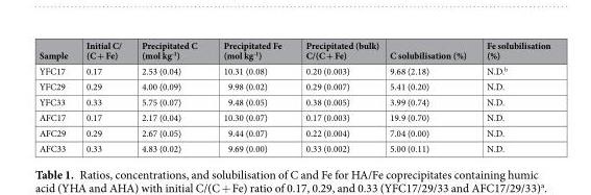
<table><thead><tr><td>Sample</td><td>Initial C/ (C + Fe)</td><td>Precipitated C (mol kg<sup>-1</sup>)</td><td>Precipitated Fe (mol kg<sup>-1</sup>)</td><td>Precipitated (bulk) C/(C + Fe)</td><td>C solubilisation (%)</td><td>Fe solubilisation (%)</td></tr></thead><tbody><tr><td>YFC17</td><td>0.17</td><td>2.53 (0.04)</td><td>10.31 (0.08)</td><td>0.20 (0.003)</td><td>9.68 (2.18)</td><td>N.D.<sup>b</sup></td></tr><tr><td>YFC29</td><td>0.29</td><td>4.00 (0.09)</td><td>9.98 (0.02)</td><td>0.29 (0.007)</td><td>5.41 (0.20)</td><td>N.D.</td></tr><tr><td>YFC33</td><td>0.33</td><td>5.75 (0.07)</td><td>9.48 (0.05)</td><td>0.38 (0.005)</td><td>3.99 (0.74)</td><td>N.D.</td></tr><tr><td>AFC17</td><td>0.17</td><td>2.17 (0.04)</td><td>10.30 (0.07)</td><td>0.17 (0.003)</td><td>19.9 (0.70)</td><td>N.D.</td></tr><tr><td>AFC29</td><td>0.29</td><td>2.67 (0.05)</td><td>9.44 (0.07)</td><td>0.22 (0.004)</td><td>7.04 (0.00)</td><td>N.D.</td></tr><tr><td>AFC33</td><td>0.33</td><td>4.83 (0.02)</td><td>9.69 (0.00)</td><td>0.33 (0.002)</td><td>5.00 (0.11)</td><td>N.D.</td></tr></tbody></table>